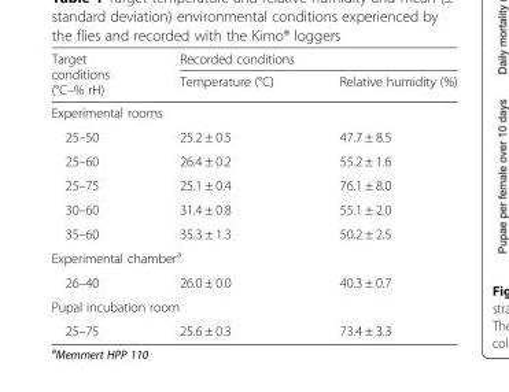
<table><thead><tr><td rowspan="2">Target conditions (°C–% rH)</td><td colspan="2">Recorded conditions</td></tr><tr><td>Temperature (°C)</td><td>Relative humidity (%)</td></tr></thead><tbody><tr><td colspan="3">Experimental rooms</td></tr><tr><td>25–50</td><td>25.2 ± 0.5</td><td>47.7 ± 8.5</td></tr><tr><td>25–60</td><td>26.4 ± 0.2</td><td>55.2 ± 1.6</td></tr><tr><td>25–75</td><td>25.1 ± 0.4</td><td>76.1 ± 8.0</td></tr><tr><td>30–60</td><td>31.4 ± 0.8</td><td>55.1 ± 2.0</td></tr><tr><td>35–60</td><td>35.3 ± 1.3</td><td>50.2 ± 2.5</td></tr><tr><td colspan="3">Experimental chamber<sup>a</sup></td></tr><tr><td>26–40</td><td>26.0 ± 0.0</td><td>40.3 ± 0.7</td></tr><tr><td colspan="3">Pupal incubation room</td></tr><tr><td>25–75</td><td>25.6 ± 0.3</td><td>73.4 ± 3.3</td></tr></tbody></table>